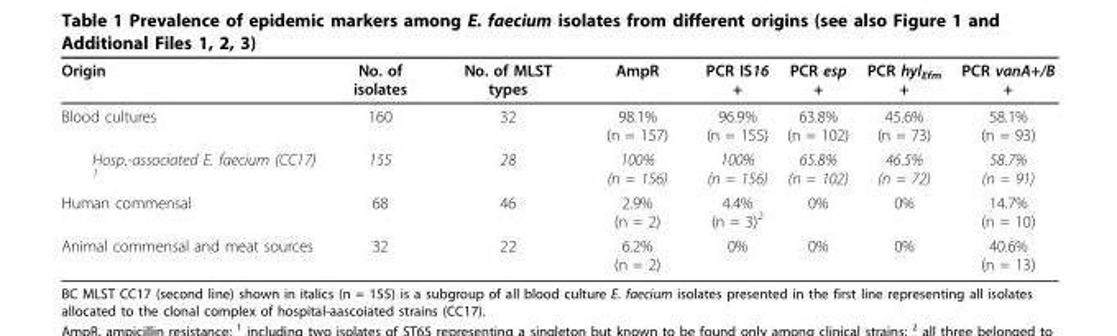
<table><thead><tr><td>Origin</td><td>No. of isolates</td><td>No. of MLST types</td><td>AmpR</td><td>PCR IS16 +</td><td>PCR esp +</td><td>PCR hyl<sub>Efm</sub> +</td><td>PCR vanA+/B +</td></tr></thead><tbody><tr><td>Blood cultures</td><td>160</td><td>32</td><td>98.1% (n = 157)</td><td>96.9% (n = 155)</td><td>63.8% (n = 102)</td><td>45.6% (n = 73)</td><td>58.1% (n = 93)</td></tr><tr><td>Hosp.-associated E. faecium (CC17) <sup>1</sup></td><td>155</td><td>28</td><td>100% (n = 156)</td><td>100% (n = 156)</td><td>65.8% (n = 102)</td><td>46.5% (n = 72)</td><td>58.7% (n = 91)</td></tr><tr><td>Human commensal</td><td>68</td><td>46</td><td>2.9% (n = 2)</td><td>4.4% (n = 3)<sup>2</sup></td><td>0%</td><td>0%</td><td>14.7% (n = 10)</td></tr><tr><td>Animal commensal and meat sources</td><td>32</td><td>22</td><td>6.2% (n = 2)</td><td>0%</td><td>0%</td><td>0%</td><td>40.6% (n = 13)</td></tr></tbody></table>